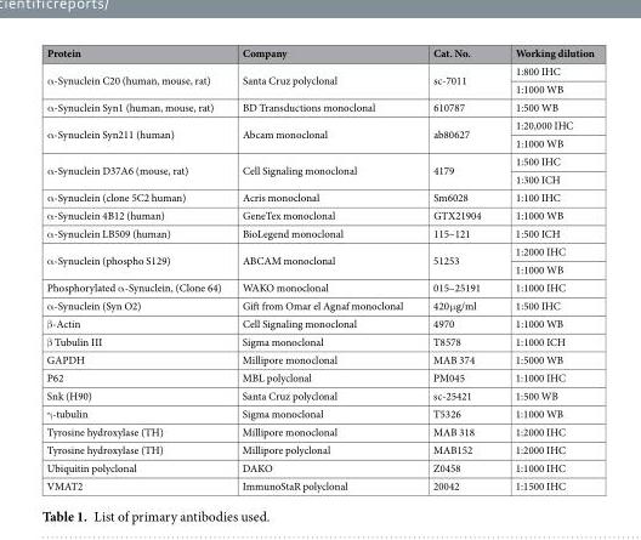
<table><thead><tr><td>Protein</td><td>Company</td><td>Cat. No.</td><td>Working dilution</td></tr></thead><tbody><tr><td rowspan="2">α-Synuclein C20 (human, mouse, rat)</td><td rowspan="2">Santa Cruz polyclonal</td><td rowspan="2">sc-7011</td><td>1:800 IHC</td></tr><tr><td>1:1000 WB</td></tr><tr><td>α-Synuclein Syn1 (human, mouse, rat)</td><td>BD Transductions monoclonal</td><td>610787</td><td>1:500 WB</td></tr><tr><td rowspan="2">α-Synuclein Syn211 (human)</td><td rowspan="2">Abcam monoclonal</td><td rowspan="2">ab80627</td><td>1:20,000 IHC</td></tr><tr><td>1:1000 WB</td></tr><tr><td rowspan="2">α-Synuclein D37A6 (mouse, rat)</td><td rowspan="2">Cell Signaling monoclonal</td><td rowspan="2">4179</td><td>1:500 IHC</td></tr><tr><td>1:300 ICH</td></tr><tr><td>α-Synuclein (clone 5C2 human)</td><td>Acris monoclonal</td><td>Sm6028</td><td>1:100 IHC</td></tr><tr><td>α-Synuclein 4B12 (human)</td><td>GeneTex monoclonal</td><td>GTX21904</td><td>1:1000 WB</td></tr><tr><td>α-Synuclein LB509 (human)</td><td>BioLegend monoclonal</td><td>115–121</td><td>1:500 ICH</td></tr><tr><td rowspan="2">α-Synuclein (phospho S129)</td><td rowspan="2">ABCAM monoclonal</td><td rowspan="2">51253</td><td>1:2000 IHC</td></tr><tr><td>1:1000 WB</td></tr><tr><td>Phosphorylated α-Synuclein, (Clone 64)</td><td>WAKO monoclonal</td><td>015–25191</td><td>1:1000 IHC</td></tr><tr><td>α-Synuclein (Syn O2)</td><td>Gift from Omar el Agnaf monoclonal</td><td>420 μg/ml</td><td>1:500 IHC</td></tr><tr><td>β-Actin</td><td>Cell Signaling monoclonal</td><td>4970</td><td>1:1000 WB</td></tr><tr><td>β Tubulin III</td><td>Sigma monoclonal</td><td>T8578</td><td>1:1000 ICH</td></tr><tr><td>GAPDH</td><td>Millipore monoclonal</td><td>MAB 374</td><td>1:5000 WB</td></tr><tr><td>P62</td><td>MBL polyclonal</td><td>PM045</td><td>1:1000 IHC</td></tr><tr><td>Snk (H90)</td><td>Santa Cruz polyclonal</td><td>sc-25421</td><td>1:500 WB</td></tr><tr><td>γ-tubulin</td><td>Sigma monoclonal</td><td>T5326</td><td>1:1000 WB</td></tr><tr><td>Tyrosine hydroxylase (TH)</td><td>Millipore monoclonal</td><td>MAB 318</td><td>1:2000 IHC</td></tr><tr><td>Tyrosine hydroxylase (TH)</td><td>Millipore polyclonal</td><td>MAB152</td><td>1:2000 IHC</td></tr><tr><td>Ubiquitin polyclonal</td><td>DAKO</td><td>Z0458</td><td>1:1000 IHC</td></tr><tr><td>VMAT2</td><td>ImmunoStaR polyclonal</td><td>20042</td><td>1:1500 IHC</td></tr></tbody></table>